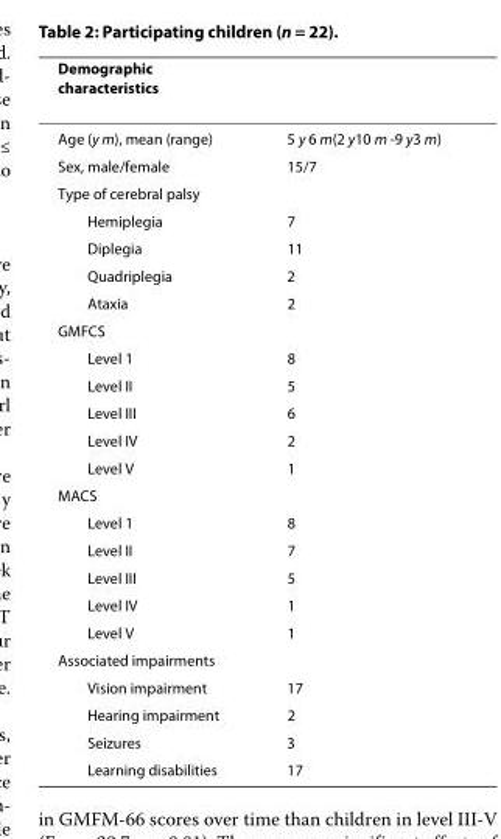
<table><thead><tr><td>Demographic characteristics</td><td></td></tr></thead><tbody><tr><td>Age (y m), mean (range)</td><td>5 y 6 m(2 y10 m -9 y3 m)</td></tr><tr><td>Sex, male/female</td><td>15/7</td></tr><tr><td colspan="2">Type of cerebral palsy</td></tr><tr><td>Hemiplegia</td><td>7</td></tr><tr><td>Diplegia</td><td>11</td></tr><tr><td>Quadriplegia</td><td>2</td></tr><tr><td>Ataxia</td><td>2</td></tr><tr><td colspan="2">GMFCS</td></tr><tr><td>Level 1</td><td>8</td></tr><tr><td>Level II</td><td>5</td></tr><tr><td>Level III</td><td>6</td></tr><tr><td>Level IV</td><td>2</td></tr><tr><td>Level V</td><td>1</td></tr><tr><td colspan="2">MACS</td></tr><tr><td>Level 1</td><td>8</td></tr><tr><td>Level II</td><td>7</td></tr><tr><td>Level III</td><td>5</td></tr><tr><td>Level IV</td><td>1</td></tr><tr><td>Level V</td><td>1</td></tr><tr><td colspan="2">Associated impairments</td></tr><tr><td>Vision impairment</td><td>17</td></tr><tr><td>Hearing impairment</td><td>2</td></tr><tr><td>Seizures</td><td>3</td></tr><tr><td>Learning disabilities</td><td>17</td></tr></tbody></table>